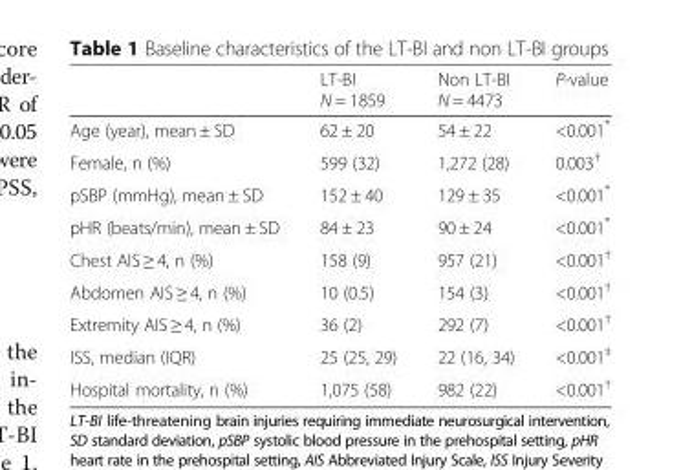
<table><thead><tr><td></td><td>LT-BI N = 1859</td><td>Non LT-BI N = 4473</td><td>P-value</td></tr></thead><tbody><tr><td>Age (year), mean ± SD</td><td>62 ± 20</td><td>54 ± 22</td><td>&lt;0.001*</td></tr><tr><td>Female, n (%)</td><td>599 (32)</td><td>1,272 (28)</td><td>0.003<sup>†</sup></td></tr><tr><td>pSBP (mmHg), mean ± SD</td><td>152 ± 40</td><td>129 ± 35</td><td>&lt;0.001*</td></tr><tr><td>pHR (beats/min), mean ± SD</td><td>84 ± 23</td><td>90 ± 24</td><td>&lt;0.001*</td></tr><tr><td>Chest AIS ≥ 4, n (%)</td><td>158 (9)</td><td>957 (21)</td><td>&lt;0.001<sup>†</sup></td></tr><tr><td>Abdomen AIS ≥ 4, n (%)</td><td>10 (0.5)</td><td>154 (3)</td><td>&lt;0.001<sup>†</sup></td></tr><tr><td>Extremity AIS ≥ 4, n (%)</td><td>36 (2)</td><td>292 (7)</td><td>&lt;0.001<sup>†</sup></td></tr><tr><td>ISS, median (IQR)</td><td>25 (25, 29)</td><td>22 (16, 34)</td><td>&lt;0.001<sup>‡</sup></td></tr><tr><td>Hospital mortality, n (%)</td><td>1,075 (58)</td><td>982 (22)</td><td>&lt;0.001<sup>†</sup></td></tr></tbody></table>